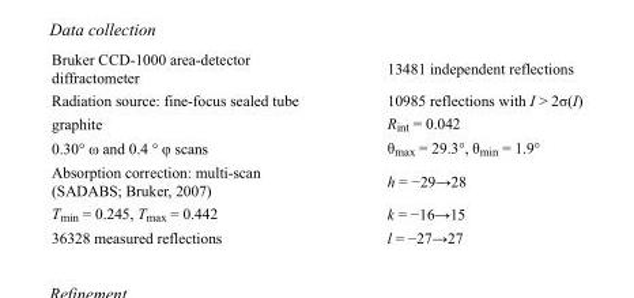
<table><tbody><tr><td>Bruker CCD-1000 area-detector diffractometer</td><td>13481 independent reflections</td></tr><tr><td>Radiation source: fine-focus sealed tube</td><td>10985 reflections with I &gt; 2σ(I)</td></tr><tr><td>graphite</td><td>R<sub>int</sub> = 0.042</td></tr><tr><td>0.30° ω and 0.4 ° φ scans</td><td>θ<sub>max</sub> = 29.3°, θ<sub>min</sub> = 1.9°</td></tr><tr><td>Absorption correction: multi-scan (SADABS; Bruker, 2007)</td><td>h = −29→28</td></tr><tr><td>T<sub>min</sub> = 0.245, T<sub>max</sub> = 0.442</td><td>k = −16→15</td></tr><tr><td>36328 measured reflections</td><td>l = −27→27</td></tr></tbody></table>